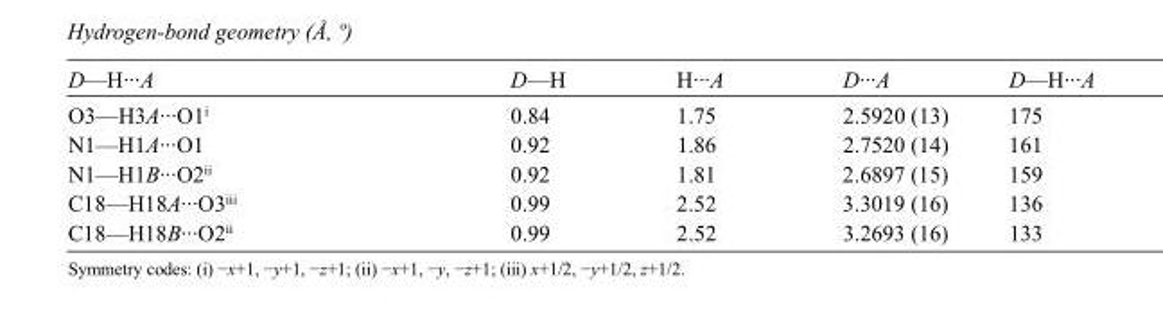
<table><tbody><tr><td>D—H···A</td><td>D—H</td><td>H···A</td><td>D···A</td><td>D—H···A</td></tr><tr><td>O3—H3A···O1<sup>i</sup></td><td>0.84</td><td>1.75</td><td>2.5920 (13)</td><td>175</td></tr><tr><td>N1—H1A···O1</td><td>0.92</td><td>1.86</td><td>2.7520 (14)</td><td>161</td></tr><tr><td>N1—H1B···O2<sup>ii</sup></td><td>0.92</td><td>1.81</td><td>2.6897 (15)</td><td>159</td></tr><tr><td>C18—H18A···O3<sup>iii</sup></td><td>0.99</td><td>2.52</td><td>3.3019 (16)</td><td>136</td></tr><tr><td>C18—H18B···O2<sup>ii</sup></td><td>0.99</td><td>2.52</td><td>3.2693 (16)</td><td>133</td></tr></tbody></table>